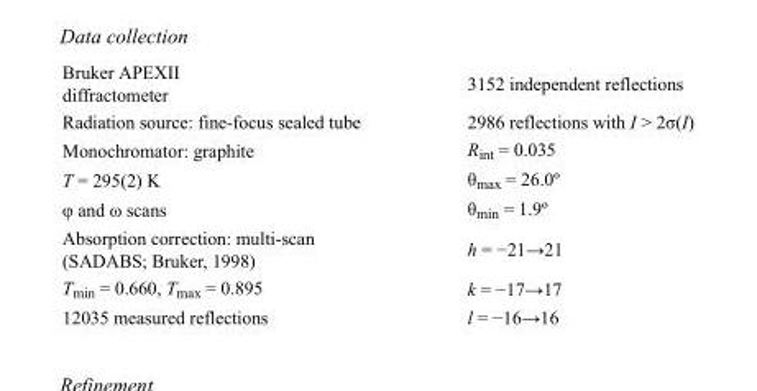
<table><tbody><tr><td>Bruker APEXII diffractometer</td><td>3152 independent reflections</td></tr><tr><td>Radiation source: fine-focus sealed tube</td><td>2986 reflections with I &gt; 2σ(I)</td></tr><tr><td>Monochromator: graphite</td><td>R<sub>int</sub> = 0.035</td></tr><tr><td>T = 295(2) K</td><td>θ<sub>max</sub> = 26.0º</td></tr><tr><td>φ and ω scans</td><td>θ<sub>min</sub> = 1.9º</td></tr><tr><td>Absorption correction: multi-scan (SADABS; Bruker, 1998)</td><td>h = −21→21</td></tr><tr><td>T<sub>min</sub> = 0.660, T<sub>max</sub> = 0.895</td><td>k = −17→17</td></tr><tr><td>12035 measured reflections</td><td>l = −16→16</td></tr></tbody></table>